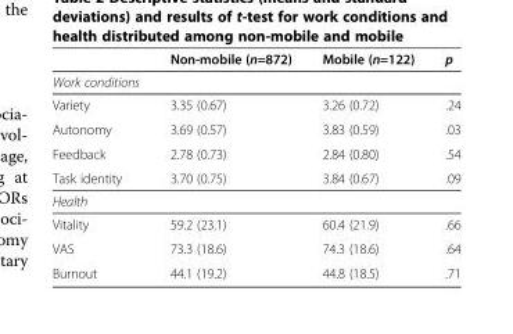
<table><thead><tr><td></td><td>Non-mobile (n=872)</td><td>Mobile (n=122)</td><td>p</td></tr></thead><tbody><tr><td colspan="4">Work conditions</td></tr><tr><td>Variety</td><td>3.35 (0.67)</td><td>3.26 (0.72)</td><td>.24</td></tr><tr><td>Autonomy</td><td>3.69 (0.57)</td><td>3.83 (0.59)</td><td>.03</td></tr><tr><td>Feedback</td><td>2.78 (0.73)</td><td>2.84 (0.80)</td><td>.54</td></tr><tr><td>Task identity</td><td>3.70 (0.75)</td><td>3.84 (0.67)</td><td>.09</td></tr><tr><td colspan="4">Health</td></tr><tr><td>Vitality</td><td>59.2 (23.1)</td><td>60.4 (21.9)</td><td>.66</td></tr><tr><td>VAS</td><td>73.3 (18.6)</td><td>74.3 (18.6)</td><td>.64</td></tr><tr><td>Burnout</td><td>44.1 (19.2)</td><td>44.8 (18.5)</td><td>.71</td></tr></tbody></table>